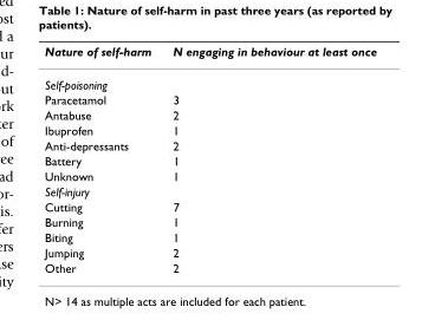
<table><thead><tr><td>Nature of self-harm</td><td>N engaging in behaviour at least once</td></tr></thead><tbody><tr><td colspan="2">Self-poisoning</td></tr><tr><td>Paracetamol</td><td>3</td></tr><tr><td>Antabuse</td><td>2</td></tr><tr><td>Ibuprofen</td><td>1</td></tr><tr><td>Anti-depressants</td><td>2</td></tr><tr><td>Battery</td><td>1</td></tr><tr><td>Unknown</td><td>1</td></tr><tr><td colspan="2">Self-injury</td></tr><tr><td>Cutting</td><td>7</td></tr><tr><td>Burning</td><td>1</td></tr><tr><td>Biting</td><td>1</td></tr><tr><td>Jumping</td><td>2</td></tr><tr><td>Other</td><td>2</td></tr></tbody></table>